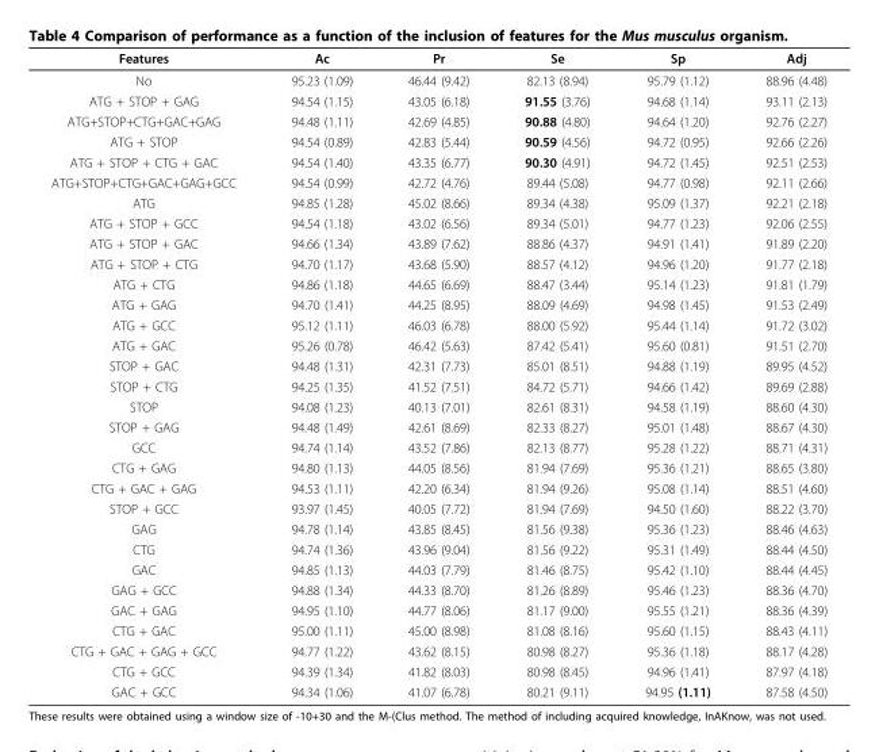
<table><thead><tr><td>Features</td><td>Ac</td><td>Pr</td><td>Se</td><td>Sp</td><td>Adj</td></tr></thead><tbody><tr><td>No</td><td>95.23 (1.09)</td><td>46.44 (9.42)</td><td>82.13 (8.94)</td><td>95.79 (1.12)</td><td>88.96 (4.48)</td></tr><tr><td>ATG + STOP + GAG</td><td>94.54 (1.15)</td><td>43.05 (6.18)</td><td>91.55 (3.76)</td><td>94.68 (1.14)</td><td>93.11 (2.13)</td></tr><tr><td>ATG+STOP+CTG+GAC+GAG</td><td>94.48 (1.11)</td><td>42.69 (4.85)</td><td>90.88 (4.80)</td><td>94.64 (1.20)</td><td>92.76 (2.27)</td></tr><tr><td>ATG + STOP</td><td>94.54 (0.89)</td><td>42.83 (5.44)</td><td>90.59 (4.56)</td><td>94.72 (0.95)</td><td>92.66 (2.26)</td></tr><tr><td>ATG + STOP + CTG + GAC</td><td>94.54 (1.40)</td><td>43.35 (6.77)</td><td>90.30 (4.91)</td><td>94.72 (1.45)</td><td>92.51 (2.53)</td></tr><tr><td>ATG+STOP+CTG+GAC+GAG+GCC</td><td>94.54 (0.99)</td><td>42.72 (4.76)</td><td>89.44 (5.08)</td><td>94.77 (0.98)</td><td>92.11 (2.66)</td></tr><tr><td>ATG</td><td>94.85 (1.28)</td><td>45.02 (8.66)</td><td>89.34 (4.38)</td><td>95.09 (1.37)</td><td>92.21 (2.18)</td></tr><tr><td>ATG + STOP + GCC</td><td>94.54 (1.18)</td><td>43.02 (6.56)</td><td>89.34 (5.01)</td><td>94.77 (1.23)</td><td>92.06 (2.55)</td></tr><tr><td>ATG + STOP + GAC</td><td>94.66 (1.34)</td><td>43.89 (7.62)</td><td>88.86 (4.37)</td><td>94.91 (1.41)</td><td>91.89 (2.20)</td></tr><tr><td>ATG + STOP + CTG</td><td>94.70 (1.17)</td><td>43.68 (5.90)</td><td>88.57 (4.12)</td><td>94.96 (1.20)</td><td>91.77 (2.18)</td></tr><tr><td>ATG + CTG</td><td>94.86 (1.18)</td><td>44.65 (6.69)</td><td>88.47 (3.44)</td><td>95.14 (1.23)</td><td>91.81 (1.79)</td></tr><tr><td>ATG + GAG</td><td>94.70 (1.41)</td><td>44.25 (8.95)</td><td>88.09 (4.69)</td><td>94.98 (1.45)</td><td>91.53 (2.49)</td></tr><tr><td>ATG + GCC</td><td>95.12 (1.11)</td><td>46.03 (6.78)</td><td>88.00 (5.92)</td><td>95.44 (1.14)</td><td>91.72 (3.02)</td></tr><tr><td>ATG + GAC</td><td>95.26 (0.78)</td><td>46.42 (5.63)</td><td>87.42 (5.41)</td><td>95.60 (0.81)</td><td>91.51 (2.70)</td></tr><tr><td>STOP + GAC</td><td>94.48 (1.31)</td><td>42.31 (7.73)</td><td>85.01 (8.51)</td><td>94.88 (1.19)</td><td>89.95 (4.52)</td></tr><tr><td>STOP + CTG</td><td>94.25 (1.35)</td><td>41.52 (7.51)</td><td>84.72 (5.71)</td><td>94.66 (1.42)</td><td>89.69 (2.88)</td></tr><tr><td>STOP</td><td>94.08 (1.23)</td><td>40.13 (7.01)</td><td>82.61 (8.31)</td><td>94.58 (1.19)</td><td>88.60 (4.30)</td></tr><tr><td>STOP + GAG</td><td>94.48 (1.49)</td><td>42.61 (8.69)</td><td>82.33 (8.27)</td><td>95.01 (1.48)</td><td>88.67 (4.30)</td></tr><tr><td>GCC</td><td>94.74 (1.14)</td><td>43.52 (7.86)</td><td>82.13 (8.77)</td><td>95.28 (1.22)</td><td>88.71 (4.31)</td></tr><tr><td>CTG + GAG</td><td>94.80 (1.13)</td><td>44.05 (8.56)</td><td>81.94 (7.69)</td><td>95.36 (1.21)</td><td>88.65 (3.80)</td></tr><tr><td>CTG + GAC + GAG</td><td>94.53 (1.11)</td><td>42.20 (6.34)</td><td>81.94 (9.26)</td><td>95.08 (1.14)</td><td>88.51 (4.60)</td></tr><tr><td>STOP + GCC</td><td>93.97 (1.45)</td><td>40.05 (7.72)</td><td>81.94 (7.69)</td><td>94.50 (1.60)</td><td>88.22 (3.70)</td></tr><tr><td>GAG</td><td>94.78 (1.14)</td><td>43.85 (8.45)</td><td>81.56 (9.38)</td><td>95.36 (1.23)</td><td>88.46 (4.63)</td></tr><tr><td>CTG</td><td>94.74 (1.36)</td><td>43.96 (9.04)</td><td>81.56 (9.22)</td><td>95.31 (1.49)</td><td>88.44 (4.50)</td></tr><tr><td>GAC</td><td>94.85 (1.13)</td><td>44.03 (7.79)</td><td>81.46 (8.75)</td><td>95.42 (1.10)</td><td>88.44 (4.45)</td></tr><tr><td>GAG + GCC</td><td>94.88 (1.34)</td><td>44.33 (8.70)</td><td>81.26 (8.89)</td><td>95.46 (1.23)</td><td>88.36 (4.70)</td></tr><tr><td>GAC + GAG</td><td>94.95 (1.10)</td><td>44.77 (8.06)</td><td>81.17 (9.00)</td><td>95.55 (1.21)</td><td>88.36 (4.39)</td></tr><tr><td>CTG + GAC</td><td>95.00 (1.11)</td><td>45.00 (8.98)</td><td>81.08 (8.16)</td><td>95.60 (1.15)</td><td>88.43 (4.11)</td></tr><tr><td>CTG + GAC + GAG + GCC</td><td>94.77 (1.22)</td><td>43.62 (8.15)</td><td>80.98 (8.27)</td><td>95.36 (1.18)</td><td>88.17 (4.28)</td></tr><tr><td>CTG + GCC</td><td>94.39 (1.34)</td><td>41.82 (8.03)</td><td>80.98 (8.45)</td><td>94.96 (1.41)</td><td>87.97 (4.18)</td></tr><tr><td>GAC + GCC</td><td>94.34 (1.06)</td><td>41.07 (6.78)</td><td>80.21 (9.11)</td><td>94.95 (1.11)</td><td>87.58 (4.50)</td></tr></tbody></table>